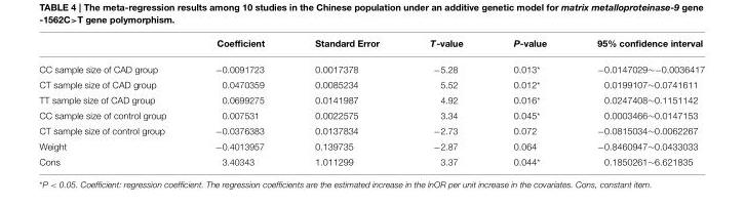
<table><thead><tr><td></td><td>Coefficient</td><td>Standard Error</td><td>T-value</td><td>P-value</td><td>95% confidence interval</td></tr></thead><tbody><tr><td>CC sample size of CAD group</td><td>−0.0091723</td><td>0.0017378</td><td>−5.28</td><td>0.013*</td><td>−0.0147029∼−0.0036417</td></tr><tr><td>CT sample size of CAD group</td><td>0.0470359</td><td>0.0085234</td><td>5.52</td><td>0.012*</td><td>0.0199107∼0.0741611</td></tr><tr><td>TT sample size of CAD group</td><td>0.0699275</td><td>0.0141987</td><td>4.92</td><td>0.016*</td><td>0.0247408∼0.1151142</td></tr><tr><td>CC sample size of control group</td><td>0.007531</td><td>0.0022575</td><td>3.34</td><td>0.045*</td><td>0.0003466∼0.0147153</td></tr><tr><td>CT sample size of control group</td><td>−0.0376383</td><td>0.0137834</td><td>−2.73</td><td>0.072</td><td>−0.0815034∼0.0062267</td></tr><tr><td>Weight</td><td>−0.4013957</td><td>0.139735</td><td>−2.87</td><td>0.064</td><td>−0.8460947∼0.0433033</td></tr><tr><td>Cons</td><td>3.40343</td><td>1.011299</td><td>3.37</td><td>0.044*</td><td>0.1850261∼6.621835</td></tr></tbody></table>